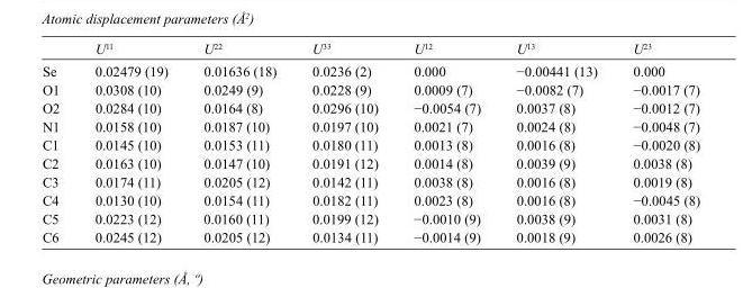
<table><thead><tr><td></td><td>U<sup>11</sup></td><td>U<sup>22</sup></td><td>U<sup>33</sup></td><td>U<sup>12</sup></td><td>U<sup>13</sup></td><td>U<sup>23</sup></td></tr></thead><tbody><tr><td>Se</td><td>0.02479 (19)</td><td>0.01636 (18)</td><td>0.0236 (2)</td><td>0.000</td><td>−0.00441 (13)</td><td>0.000</td></tr><tr><td>O1</td><td>0.0308 (10)</td><td>0.0249 (9)</td><td>0.0228 (9)</td><td>0.0009 (7)</td><td>−0.0082 (7)</td><td>−0.0017 (7)</td></tr><tr><td>O2</td><td>0.0284 (10)</td><td>0.0164 (8)</td><td>0.0296 (10)</td><td>−0.0054 (7)</td><td>0.0037 (8)</td><td>−0.0012 (7)</td></tr><tr><td>N1</td><td>0.0158 (10)</td><td>0.0187 (10)</td><td>0.0197 (10)</td><td>0.0021 (7)</td><td>0.0024 (8)</td><td>−0.0048 (7)</td></tr><tr><td>C1</td><td>0.0145 (10)</td><td>0.0153 (11)</td><td>0.0180 (11)</td><td>0.0013 (8)</td><td>0.0016 (8)</td><td>−0.0020 (8)</td></tr><tr><td>C2</td><td>0.0163 (10)</td><td>0.0147 (10)</td><td>0.0191 (12)</td><td>0.0014 (8)</td><td>0.0039 (9)</td><td>0.0038 (8)</td></tr><tr><td>C3</td><td>0.0174 (11)</td><td>0.0205 (12)</td><td>0.0142 (11)</td><td>0.0038 (8)</td><td>0.0016 (8)</td><td>0.0019 (8)</td></tr><tr><td>C4</td><td>0.0130 (10)</td><td>0.0154 (11)</td><td>0.0182 (11)</td><td>0.0023 (8)</td><td>0.0016 (8)</td><td>−0.0045 (8)</td></tr><tr><td>C5</td><td>0.0223 (12)</td><td>0.0160 (11)</td><td>0.0199 (12)</td><td>−0.0010 (9)</td><td>0.0038 (9)</td><td>0.0031 (8)</td></tr><tr><td>C6</td><td>0.0245 (12)</td><td>0.0205 (12)</td><td>0.0134 (11)</td><td>−0.0014 (9)</td><td>0.0018 (9)</td><td>0.0026 (8)</td></tr></tbody></table>